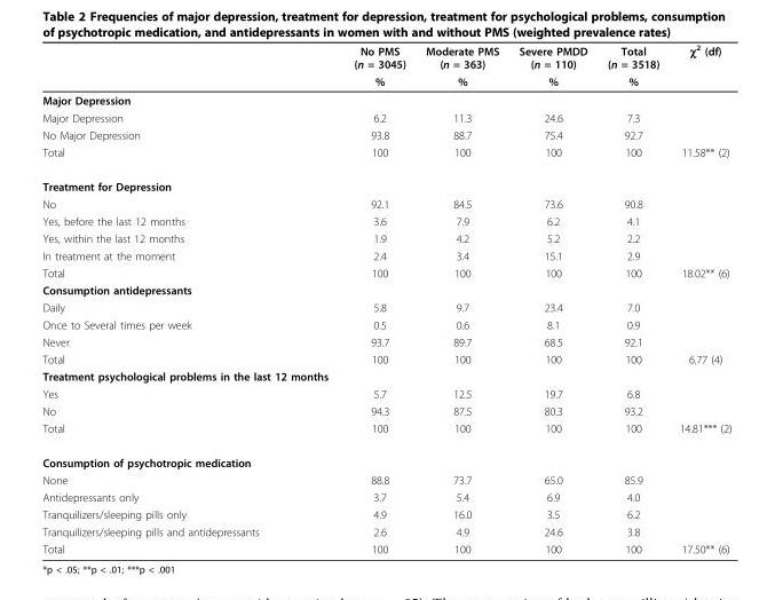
<table><thead><tr><td rowspan="2"></td><td rowspan="2">No PMS (n = 3045) %</td><td rowspan="2">Moderate PMS (n = 363) %</td><td rowspan="2">Severe PMDD (n = 110) %</td><td rowspan="2">Total (n = 3518) %</td><td rowspan="2">χ<sup>2</sup> (df)</td></tr><tr></tr></thead><tbody><tr><td colspan="6">Major Depression</td></tr><tr><td>Major Depression</td><td>6.2</td><td>11.3</td><td>24.6</td><td>7.3</td><td></td></tr><tr><td>No Major Depression</td><td>93.8</td><td>88.7</td><td>75.4</td><td>92.7</td><td></td></tr><tr><td>Total</td><td>100</td><td>100</td><td>100</td><td>100</td><td>11.58** (2)</td></tr><tr><td colspan="6">Treatment for Depression</td></tr><tr><td>No</td><td>92.1</td><td>84.5</td><td>73.6</td><td>90.8</td><td></td></tr><tr><td>Yes, before the last 12 months</td><td>3.6</td><td>7.9</td><td>6.2</td><td>4.1</td><td></td></tr><tr><td>Yes, within the last 12 months</td><td>1.9</td><td>4.2</td><td>5.2</td><td>2.2</td><td></td></tr><tr><td>In treatment at the moment</td><td>2.4</td><td>3.4</td><td>15.1</td><td>2.9</td><td></td></tr><tr><td>Total</td><td>100</td><td>100</td><td>100</td><td>100</td><td>18.02** (6)</td></tr><tr><td colspan="6">Consumption antidepressants</td></tr><tr><td>Daily</td><td>5.8</td><td>9.7</td><td>23.4</td><td>7.0</td><td></td></tr><tr><td>Once to Several times per week</td><td>0.5</td><td>0.6</td><td>8.1</td><td>0.9</td><td></td></tr><tr><td>Never</td><td>93.7</td><td>89.7</td><td>68.5</td><td>92.1</td><td></td></tr><tr><td>Total</td><td>100</td><td>100</td><td>100</td><td>100</td><td>6.77 (4)</td></tr><tr><td colspan="6">Treatment psychological problems in the last 12 months</td></tr><tr><td>Yes</td><td>5.7</td><td>12.5</td><td>19.7</td><td>6.8</td><td></td></tr><tr><td>No</td><td>94.3</td><td>87.5</td><td>80.3</td><td>93.2</td><td></td></tr><tr><td>Total</td><td>100</td><td>100</td><td>100</td><td>100</td><td>14.81*** (2)</td></tr><tr><td colspan="6">Consumption of psychotropic medication</td></tr><tr><td>None</td><td>88.8</td><td>73.7</td><td>65.0</td><td>85.9</td><td></td></tr><tr><td>Antidepressants only</td><td>3.7</td><td>5.4</td><td>6.9</td><td>4.0</td><td></td></tr><tr><td>Tranquilizers/sleeping pills only</td><td>4.9</td><td>16.0</td><td>3.5</td><td>6.2</td><td></td></tr><tr><td>Tranquilizers/sleeping pills and antidepressants</td><td>2.6</td><td>4.9</td><td>24.6</td><td>3.8</td><td></td></tr><tr><td>Total</td><td>100</td><td>100</td><td>100</td><td>100</td><td>17.50** (6)</td></tr></tbody></table>